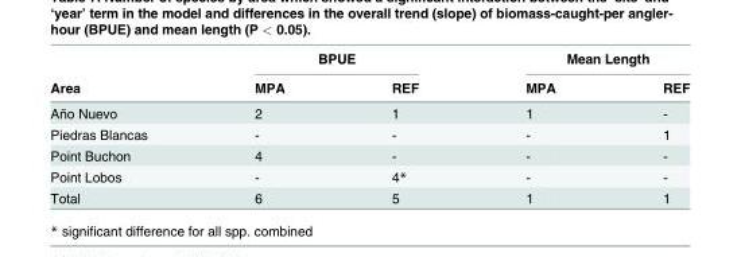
<table><thead><tr><td rowspan="2">Area</td><td colspan="2">BPUE</td><td colspan="2">Mean Length</td></tr><tr><td>MPA</td><td>REF</td><td>MPA</td><td>REF</td></tr></thead><tbody><tr><td>Año Nuevo</td><td>2</td><td>1</td><td>1</td><td>-</td></tr><tr><td>Piedras Blancas</td><td>-</td><td>-</td><td>-</td><td>1</td></tr><tr><td>Point Buchon</td><td>4</td><td>-</td><td>-</td><td>-</td></tr><tr><td>Point Lobos</td><td>-</td><td>4*</td><td>-</td><td>-</td></tr><tr><td>Total</td><td>6</td><td>5</td><td>1</td><td>1</td></tr></tbody></table>